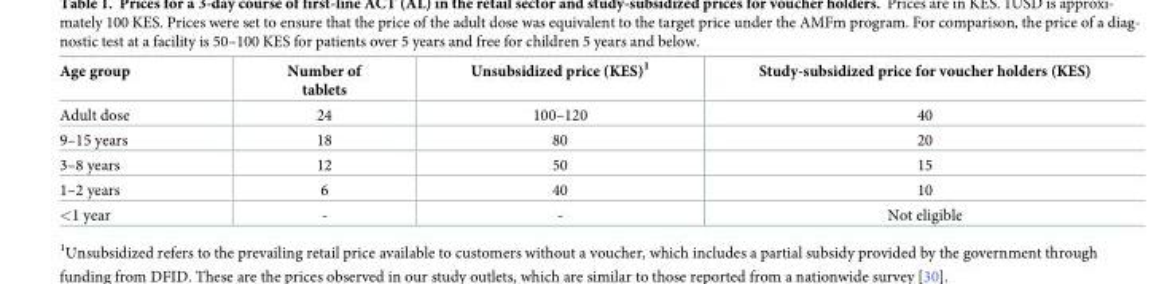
<table><thead><tr><td>Age group</td><td>Number of tablets</td><td>Unsubsidized price (KES)<sup>1</sup></td><td>Study-subsidized price for voucher holders (KES)</td></tr></thead><tbody><tr><td>Adult dose</td><td>24</td><td>100–120</td><td>40</td></tr><tr><td>9–15 years</td><td>18</td><td>80</td><td>20</td></tr><tr><td>3–8 years</td><td>12</td><td>50</td><td>15</td></tr><tr><td>1–2 years</td><td>6</td><td>40</td><td>10</td></tr><tr><td>&lt;1 year</td><td>-</td><td>-</td><td>Not eligible</td></tr></tbody></table>